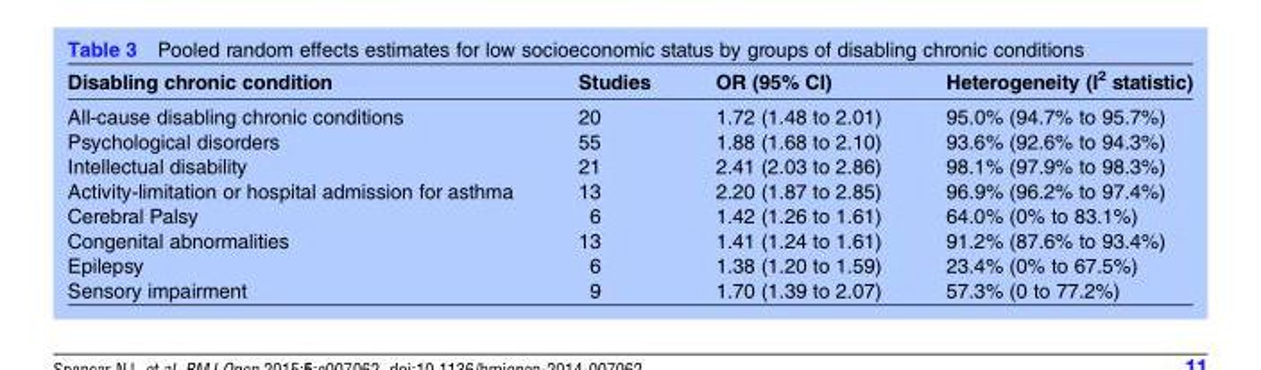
<table><thead><tr><td>Disabling chronic condition</td><td>Studies</td><td>OR (95% CI)</td><td>Heterogeneity (I<sup>2</sup> statistic)</td></tr></thead><tbody><tr><td>All-cause disabling chronic conditions</td><td>20</td><td>1.72 (1.48 to 2.01)</td><td>95.0% (94.7% to 95.7%)</td></tr><tr><td>Psychological disorders</td><td>55</td><td>1.88 (1.68 to 2.10)</td><td>93.6% (92.6% to 94.3%)</td></tr><tr><td>Intellectual disability</td><td>21</td><td>2.41 (2.03 to 2.86)</td><td>98.1% (97.9% to 98.3%)</td></tr><tr><td>Activity-limitation or hospital admission for asthma</td><td>13</td><td>2.20 (1.87 to 2.85)</td><td>96.9% (96.2% to 97.4%)</td></tr><tr><td>Cerebral Palsy</td><td>6</td><td>1.42 (1.26 to 1.61)</td><td>64.0% (0% to 83.1%)</td></tr><tr><td>Congenital abnormalities</td><td>13</td><td>1.41 (1.24 to 1.61)</td><td>91.2% (87.6% to 93.4%)</td></tr><tr><td>Epilepsy</td><td>6</td><td>1.38 (1.20 to 1.59)</td><td>23.4% (0% to 67.5%)</td></tr><tr><td>Sensory impairment</td><td>9</td><td>1.70 (1.39 to 2.07)</td><td>57.3% (0 to 77.2%)</td></tr></tbody></table>